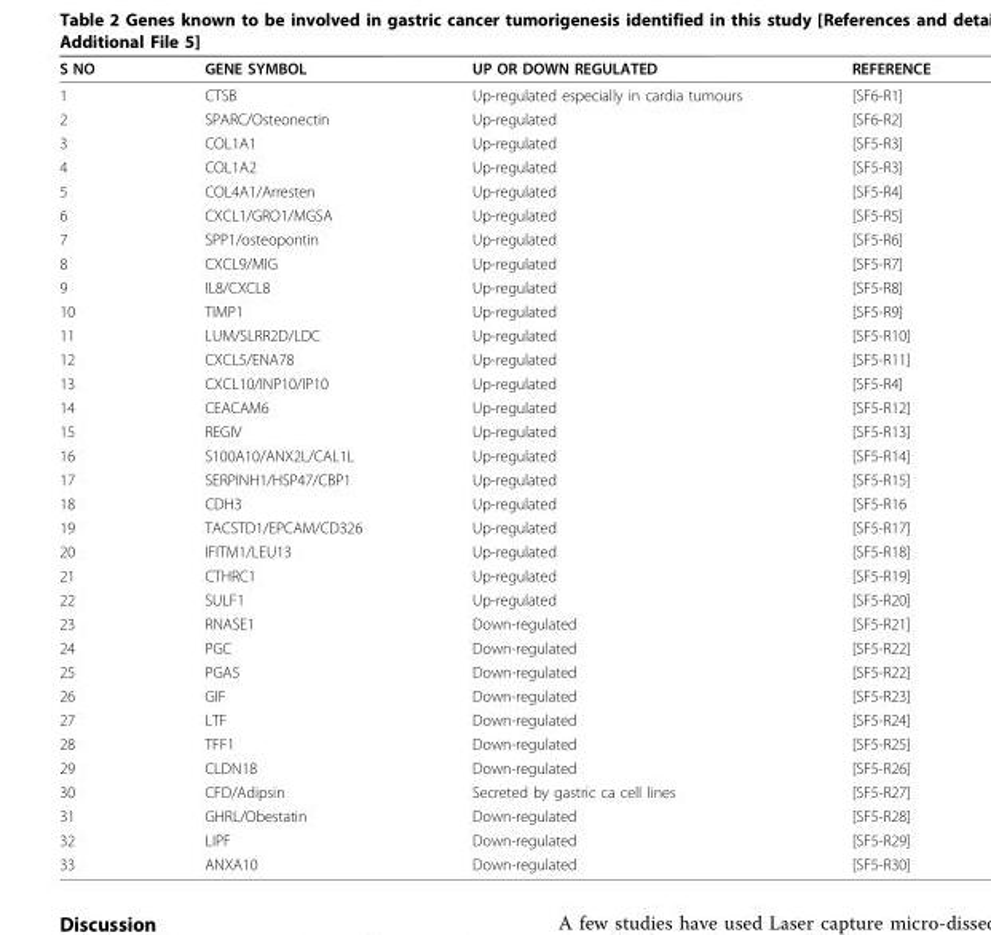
<table><thead><tr><td>S NO</td><td>GENE SYMBOL</td><td>UP OR DOWN REGULATED</td><td>REFERENCE</td></tr></thead><tbody><tr><td>1</td><td>CTSB</td><td>Up-regulated especially in cardia tumours</td><td>[SF6-R1]</td></tr><tr><td>2</td><td>SPARC/Osteonectin</td><td>Up-regulated</td><td>[SF6-R2]</td></tr><tr><td>3</td><td>COL1A1</td><td>Up-regulated</td><td>[SF5-R3]</td></tr><tr><td>4</td><td>COL1A2</td><td>Up-regulated</td><td>[SF5-R3]</td></tr><tr><td>5</td><td>COL4A1/Arresten</td><td>Up-regulated</td><td>[SF5-R4]</td></tr><tr><td>6</td><td>CXCL1/GRO1/MGSA</td><td>Up-regulated</td><td>[SF5-R5]</td></tr><tr><td>7</td><td>SPP1/osteopontin</td><td>Up-regulated</td><td>[SF5-R6]</td></tr><tr><td>8</td><td>CXCL9/MIG</td><td>Up-regulated</td><td>[SF5-R7]</td></tr><tr><td>9</td><td>IL8/CXCL8</td><td>Up-regulated</td><td>[SF5-R8]</td></tr><tr><td>10</td><td>TIMP1</td><td>Up-regulated</td><td>[SF5-R9]</td></tr><tr><td>11</td><td>LUM/SLRR2D/LDC</td><td>Up-regulated</td><td>[SF5-R10]</td></tr><tr><td>12</td><td>CXCL5/ENA78</td><td>Up-regulated</td><td>[SF5-R11]</td></tr><tr><td>13</td><td>CXCL10/INP10/IP10</td><td>Up-regulated</td><td>[SF5-R4]</td></tr><tr><td>14</td><td>CEACAM6</td><td>Up-regulated</td><td>[SF5-R12]</td></tr><tr><td>15</td><td>REGIV</td><td>Up-regulated</td><td>[SF5-R13]</td></tr><tr><td>16</td><td>S100A10/ANX2L/CAL1L</td><td>Up-regulated</td><td>[SF5-R14]</td></tr><tr><td>17</td><td>SERPINH1/HSP47/CBP1</td><td>Up-regulated</td><td>[SF5-R15]</td></tr><tr><td>18</td><td>CDH3</td><td>Up-regulated</td><td>[SF5-R16</td></tr><tr><td>19</td><td>TACSTD1/EPCAM/CD326</td><td>Up-regulated</td><td>[SF5-R17]</td></tr><tr><td>20</td><td>IFITM1/LEU13</td><td>Up-regulated</td><td>[SF5-R18]</td></tr><tr><td>21</td><td>CTHRC1</td><td>Up-regulated</td><td>[SF5-R19]</td></tr><tr><td>22</td><td>SULF1</td><td>Up-regulated</td><td>[SF5-R20]</td></tr><tr><td>23</td><td>RNASE1</td><td>Down-regulated</td><td>[SF5-R21]</td></tr><tr><td>24</td><td>PGC</td><td>Down-regulated</td><td>[SF5-R22]</td></tr><tr><td>25</td><td>PGA5</td><td>Down-regulated</td><td>[SF5-R22]</td></tr><tr><td>26</td><td>GIF</td><td>Down-regulated</td><td>[SF5-R23]</td></tr><tr><td>27</td><td>LTF</td><td>Down-regulated</td><td>[SF5-R24]</td></tr><tr><td>28</td><td>TFF1</td><td>Down-regulated</td><td>[SF5-R25]</td></tr><tr><td>29</td><td>CLDN18</td><td>Down-regulated</td><td>[SF5-R26]</td></tr><tr><td>30</td><td>CFD/Adipsin</td><td>Secreted by gastric ca cell lines</td><td>[SF5-R27]</td></tr><tr><td>31</td><td>GHRL/Obestatin</td><td>Down-regulated</td><td>[SF5-R28]</td></tr><tr><td>32</td><td>LIPF</td><td>Down-regulated</td><td>[SF5-R29]</td></tr><tr><td>33</td><td>ANXA10</td><td>Down-regulated</td><td>[SF5-R30]</td></tr></tbody></table>